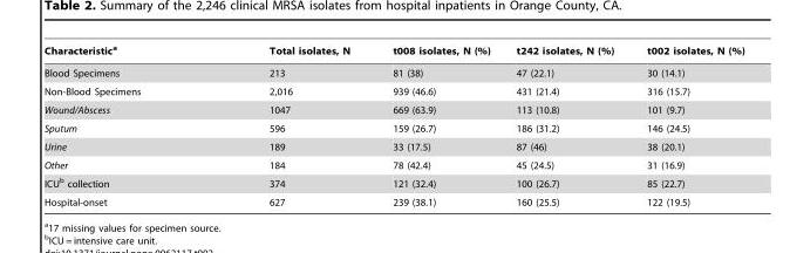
<table><thead><tr><td>Characteristic<sup>a</sup></td><td>Total isolates, N</td><td>t008 isolates, N (%)</td><td>t242 isolates, N (%)</td><td>t002 isolates, N (%)</td></tr></thead><tbody><tr><td>Blood Specimens</td><td>213</td><td>81 (38)</td><td>47 (22.1)</td><td>30 (14.1)</td></tr><tr><td>Non-Blood Specimens</td><td>2,016</td><td>939 (46.6)</td><td>431 (21.4)</td><td>316 (15.7)</td></tr><tr><td>Wound/Abscess</td><td>1047</td><td>669 (63.9)</td><td>113 (10.8)</td><td>101 (9.7)</td></tr><tr><td>Sputum</td><td>596</td><td>159 (26.7)</td><td>186 (31.2)</td><td>146 (24.5)</td></tr><tr><td>Urine</td><td>189</td><td>33 (17.5)</td><td>87 (46)</td><td>38 (20.1)</td></tr><tr><td>Other</td><td>184</td><td>78 (42.4)</td><td>45 (24.5)</td><td>31 (16.9)</td></tr><tr><td>ICU<sup>b</sup> collection</td><td>374</td><td>121 (32.4)</td><td>100 (26.7)</td><td>85 (22.7)</td></tr><tr><td>Hospital-onset</td><td>627</td><td>239 (38.1)</td><td>160 (25.5)</td><td>122 (19.5)</td></tr></tbody></table>